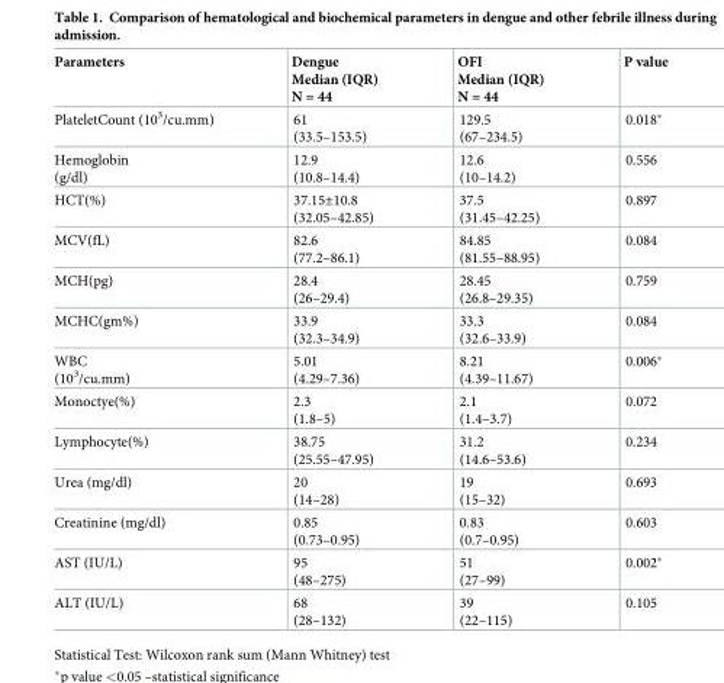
<table><thead><tr><td>Parameters</td><td>Dengue Median (IQR) N = 44</td><td>OFI Median (IQR) N = 44</td><td>P value</td></tr></thead><tbody><tr><td>PlateletCount (10<sup>3</sup>/cu.mm)</td><td>61 (33.5–153.5)</td><td>129.5 (67–234.5)</td><td>0.018*</td></tr><tr><td>Hemoglobin (g/dl)</td><td>12.9 (10.8–14.4)</td><td>12.6 (10–14.2)</td><td>0.556</td></tr><tr><td>HCT(%)</td><td>37.15±10.8 (32.05–42.85)</td><td>37.5 (31.45–42.25)</td><td>0.897</td></tr><tr><td>MCV(fL)</td><td>82.6 (77.2–86.1)</td><td>84.85 (81.55–88.95)</td><td>0.084</td></tr><tr><td>MCH(pg)</td><td>28.4 (26–29.4)</td><td>28.45 (26.8–29.35)</td><td>0.759</td></tr><tr><td>MCHC(gm%)</td><td>33.9 (32.3–34.9)</td><td>33.3 (32.6–33.9)</td><td>0.084</td></tr><tr><td>WBC (10<sup>3</sup>/cu.mm)</td><td>5.01 (4.29–7.36)</td><td>8.21 (4.39–11.67)</td><td>0.006*</td></tr><tr><td>Monoctye(%)</td><td>2.3 (1.8–5)</td><td>2.1 (1.4–3.7)</td><td>0.072</td></tr><tr><td>Lymphocyte(%)</td><td>38.75 (25.55–47.95)</td><td>31.2 (14.6–53.6)</td><td>0.234</td></tr><tr><td>Urea (mg/dl)</td><td>20 (14–28)</td><td>19 (15–32)</td><td>0.693</td></tr><tr><td>Creatinine (mg/dl)</td><td>0.85 (0.73–0.95)</td><td>0.83 (0.7–0.95)</td><td>0.603</td></tr><tr><td>AST (IU/L)</td><td>95 (48–275)</td><td>51 (27–99)</td><td>0.002*</td></tr><tr><td>ALT (IU/L)</td><td>68 (28–132)</td><td>39 (22–115)</td><td>0.105</td></tr></tbody></table>